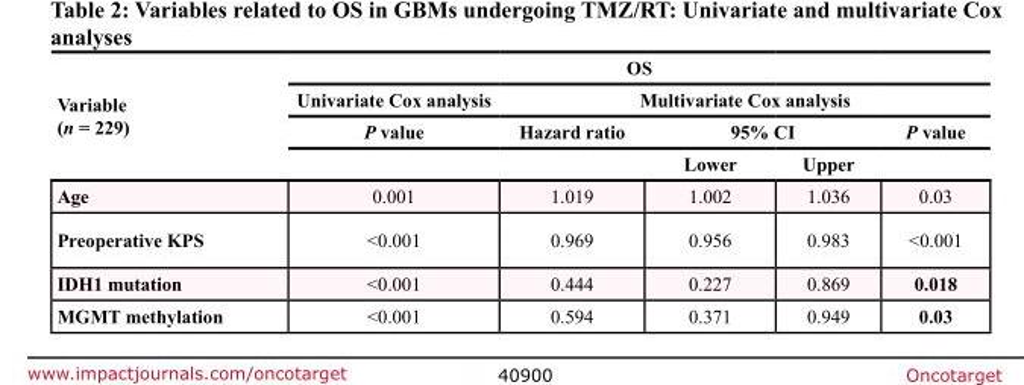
<table><thead><tr><td rowspan="4">Variable (n = 229)</td><td colspan="5">OS</td></tr><tr><td rowspan="3">Univariate Cox analysis P value</td><td colspan="4">Multivariate Cox analysis</td></tr><tr><td rowspan="2">Hazard ratio</td><td colspan="2">95% CI</td><td rowspan="2">P value</td></tr><tr><td>Lower</td><td>Upper</td></tr></thead><tbody><tr><td>Age</td><td>0.001</td><td>1.019</td><td>1.002</td><td>1.036</td><td>0.03</td></tr><tr><td>Preoperative KPS</td><td>&lt;0.001</td><td>0.969</td><td>0.956</td><td>0.983</td><td>&lt;0.001</td></tr><tr><td>IDH1 mutation</td><td>&lt;0.001</td><td>0.444</td><td>0.227</td><td>0.869</td><td>0.018</td></tr><tr><td>MGMT methylation</td><td>&lt;0.001</td><td>0.594</td><td>0.371</td><td>0.949</td><td>0.03</td></tr></tbody></table>